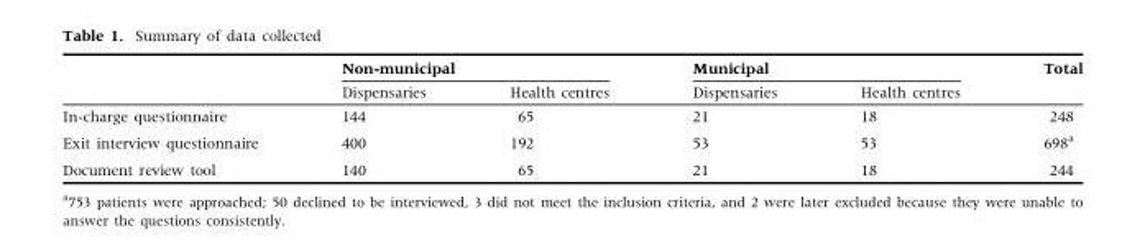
<table><thead><tr><td rowspan="2"></td><td colspan="2">Non-municipal</td><td colspan="2">Municipal</td><td rowspan="2">Total</td></tr><tr><td>Dispensaries</td><td>Health centres</td><td>Dispensaries</td><td>Health centres</td></tr></thead><tbody><tr><td>In-charge questionnaire</td><td>144</td><td>65</td><td>21</td><td>18</td><td>248</td></tr><tr><td>Exit interview questionnaire</td><td>400</td><td>192</td><td>53</td><td>53</td><td>698<sup>a</sup></td></tr><tr><td>Document review tool</td><td>140</td><td>65</td><td>21</td><td>18</td><td>244</td></tr></tbody></table>